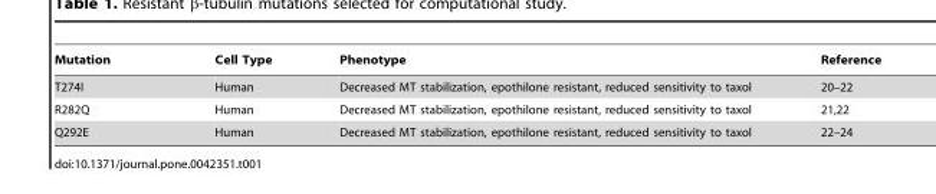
<table><thead><tr><td>Mutation</td><td>Cell Type</td><td>Phenotype</td><td>Reference</td></tr></thead><tbody><tr><td>T274I</td><td>Human</td><td>Decreased MT stabilization, epothilone resistant, reduced sensitivity to taxol</td><td>20–22</td></tr><tr><td>R282Q</td><td>Human</td><td>Decreased MT stabilization, epothilone resistant, reduced sensitivity to taxol</td><td>21,22</td></tr><tr><td>Q292E</td><td>Human</td><td>Decreased MT stabilization, epothilone resistant, reduced sensitivity to taxol</td><td>22–24</td></tr></tbody></table>